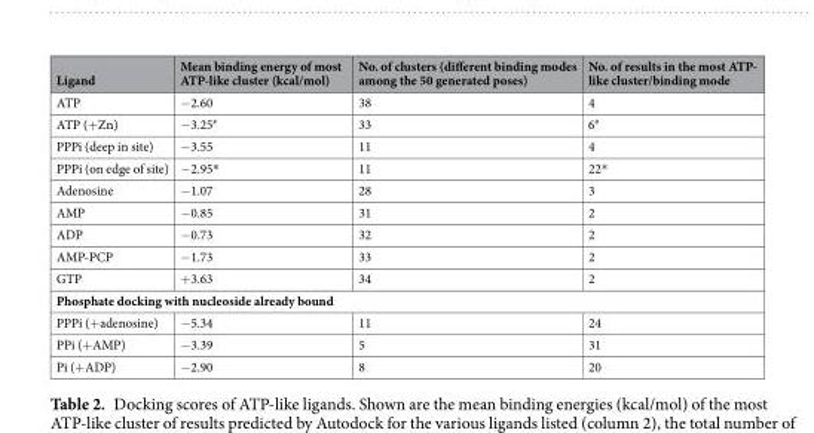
<table><thead><tr><td>Ligand</td><td>Mean binding energy of most ATP-like cluster (kcal/mol)</td><td>No. of clusters (different binding modes among the 50 generated poses)</td><td>No. of results in the most ATP- like cluster/binding mode</td></tr></thead><tbody><tr><td>ATP</td><td>−2.60</td><td>38</td><td>4</td></tr><tr><td>ATP (+Zn)</td><td>−3.25<sup>#</sup></td><td>33</td><td>6<sup>#</sup></td></tr><tr><td>PPPi (deep in site)</td><td>−3.55</td><td>11</td><td>4</td></tr><tr><td>PPPi (on edge of site)</td><td>−2.95*</td><td>11</td><td>22*</td></tr><tr><td>Adenosine</td><td>−1.07</td><td>28</td><td>3</td></tr><tr><td>AMP</td><td>−0.85</td><td>31</td><td>2</td></tr><tr><td>ADP</td><td>−0.73</td><td>32</td><td>2</td></tr><tr><td>AMP-PCP</td><td>−1.73</td><td>33</td><td>2</td></tr><tr><td>GTP</td><td>+3.63</td><td>34</td><td>2</td></tr><tr><td colspan="4">Phosphate docking with nucleoside already bound</td></tr><tr><td>PPPi (+adenosine)</td><td>−5.34</td><td>11</td><td>24</td></tr><tr><td>PPi (+AMP)</td><td>−3.39</td><td>5</td><td>31</td></tr><tr><td>Pi (+ADP)</td><td>−2.90</td><td>8</td><td>20</td></tr></tbody></table>